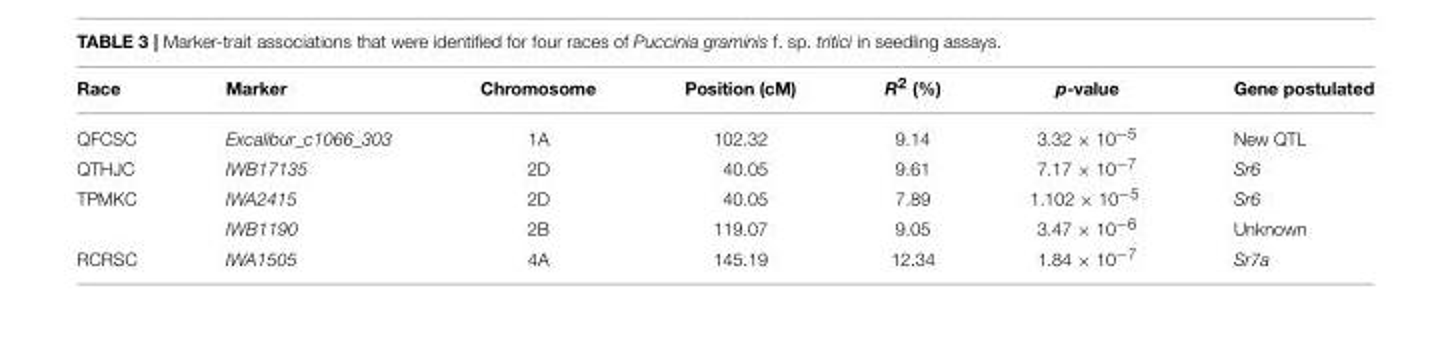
<table><thead><tr><td>Race</td><td>Marker</td><td>Chromosome</td><td>Position (cM)</td><td>R<sup>2</sup> (%)</td><td>p-value</td><td>Gene postulated</td></tr></thead><tbody><tr><td>QFCSC</td><td>Excalibur_c1066_303</td><td>1A</td><td>102.32</td><td>9.14</td><td>3.32 × 10<sup>−5</sup></td><td>New QTL</td></tr><tr><td>QTHJC</td><td>IWB17135</td><td>2D</td><td>40.05</td><td>9.61</td><td>7.17 × 10<sup>−7</sup></td><td>Sr6</td></tr><tr><td rowspan="2">TPMKC</td><td>IWA2415</td><td>2D</td><td>40.05</td><td>7.89</td><td>1.102 × 10<sup>−5</sup></td><td>Sr6</td></tr><tr><td>IWB1190</td><td>2B</td><td>119.07</td><td>9.05</td><td>3.47 × 10<sup>−6</sup></td><td>Unknown</td></tr><tr><td>RCRSC</td><td>IWA1505</td><td>4A</td><td>145.19</td><td>12.34</td><td>1.84 × 10<sup>−7</sup></td><td>Sr7a</td></tr></tbody></table>